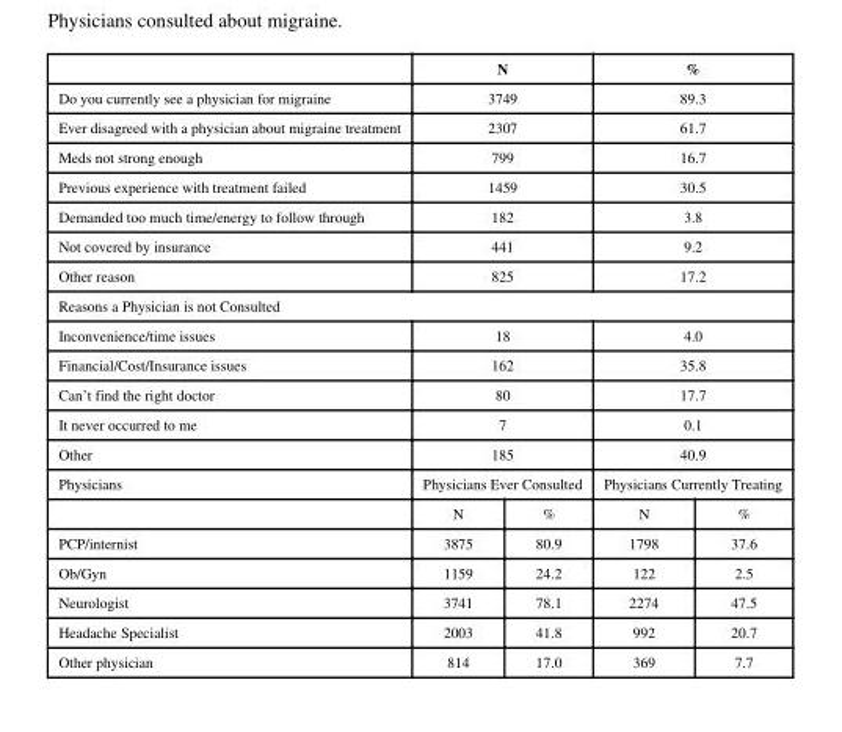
<table><thead><tr><td></td><td colspan="2">N</td><td colspan="2">%</td></tr></thead><tbody><tr><td>Do you currently see a physician for migraine</td><td colspan="2">3749</td><td colspan="2">89.3</td></tr><tr><td>Ever disagreed with a physician about migraine treatment</td><td colspan="2">2307</td><td colspan="2">61.7</td></tr><tr><td>Meds not strong enough</td><td colspan="2">799</td><td colspan="2">16.7</td></tr><tr><td>Previous experience with treatment failed</td><td colspan="2">1459</td><td colspan="2">30.5</td></tr><tr><td>Demanded too much time/energy to follow through</td><td colspan="2">182</td><td colspan="2">3.8</td></tr><tr><td>Not covered by insurance</td><td colspan="2">441</td><td colspan="2">9.2</td></tr><tr><td>Other reason</td><td colspan="2">825</td><td colspan="2">17.2</td></tr><tr><td colspan="5">Reasons a Physician is not Consulted</td></tr><tr><td>Inconvenience/time issues</td><td colspan="2">18</td><td colspan="2">4.0</td></tr><tr><td>Financial/Cost/Insurance issues</td><td colspan="2">162</td><td colspan="2">35.8</td></tr><tr><td>Can’t find the right doctor</td><td colspan="2">80</td><td colspan="2">17.7</td></tr><tr><td>It never occurred to me</td><td colspan="2">7</td><td colspan="2">0.1</td></tr><tr><td>Other</td><td colspan="2">185</td><td colspan="2">40.9</td></tr><tr><td rowspan="2">Physicians</td><td colspan="2">Physicians Ever Consulted</td><td colspan="2">Physicians Currently Treating</td></tr><tr><td>N</td><td>%</td><td>N</td><td>%</td></tr><tr><td>PCP/internist</td><td>3875</td><td>80.9</td><td>1798</td><td>37.6</td></tr><tr><td>Ob/Gyn</td><td>1159</td><td>24.2</td><td>122</td><td>2.5</td></tr><tr><td>Neurologist</td><td>3741</td><td>78.1</td><td>2274</td><td>47.5</td></tr><tr><td>Headache Specialist</td><td>2003</td><td>41.8</td><td>992</td><td>20.7</td></tr><tr><td>Other physician</td><td>814</td><td>17.0</td><td>369</td><td>7.7</td></tr></tbody></table>